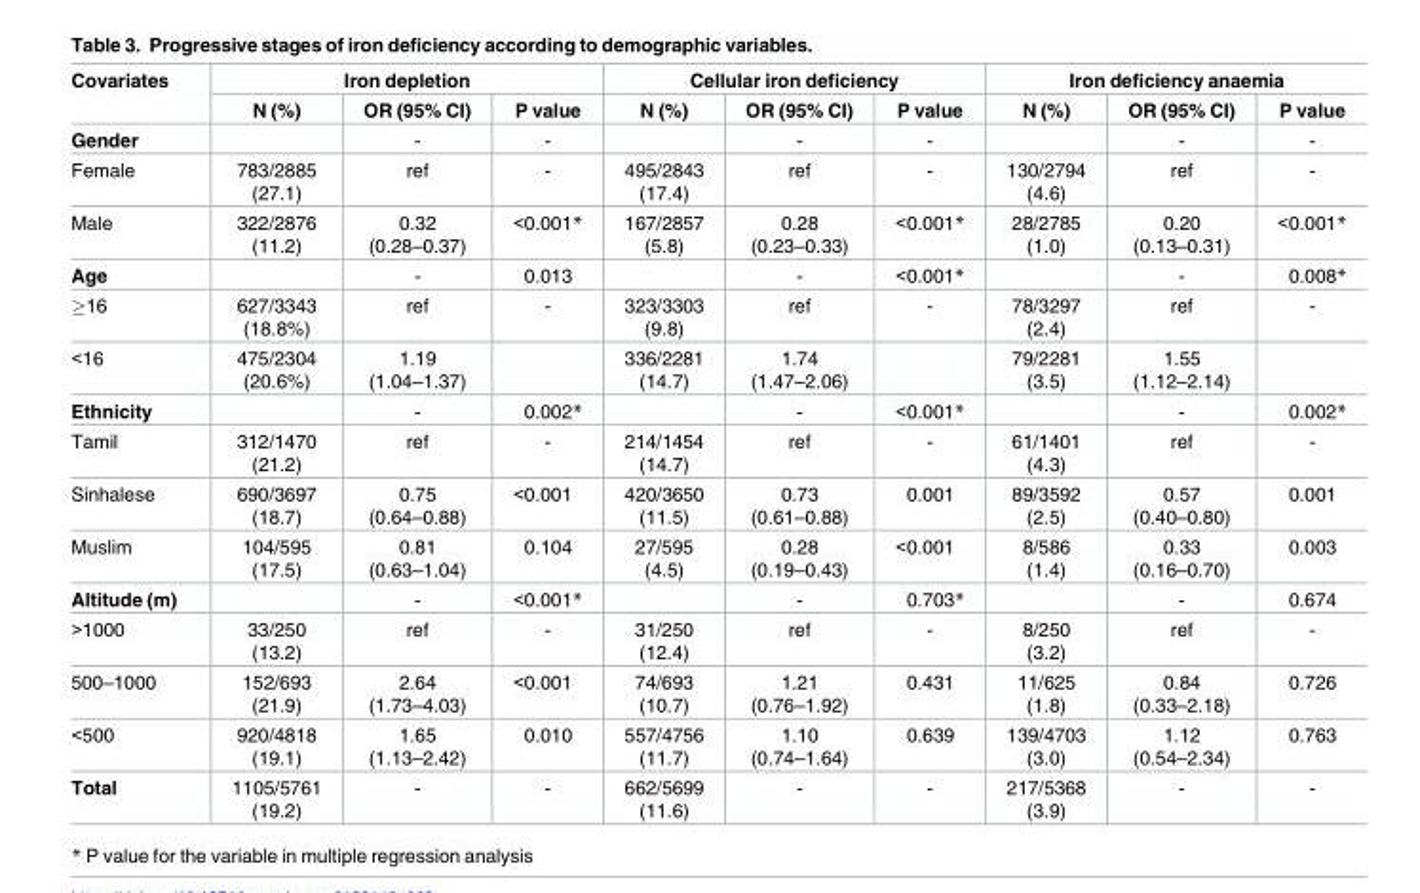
<table><thead><tr><td rowspan="2">Covariates</td><td colspan="3">Iron depletion</td><td colspan="3">Cellular iron deficiency</td><td colspan="3">Iron deficiency anaemia</td></tr><tr><td>N (%)</td><td>OR (95% CI)</td><td>P value</td><td>N (%)</td><td>OR (95% CI)</td><td>P value</td><td>N (%)</td><td>OR (95% CI)</td><td>P value</td></tr></thead><tbody><tr><td>Gender</td><td></td><td>-</td><td>-</td><td></td><td>-</td><td>-</td><td></td><td>-</td><td>-</td></tr><tr><td>Female</td><td>783/2885 (27.1)</td><td>ref</td><td>-</td><td>495/2843 (17.4)</td><td>ref</td><td>-</td><td>130/2794 (4.6)</td><td>ref</td><td>-</td></tr><tr><td>Male</td><td>322/2876 (11.2)</td><td>0.32 (0.28–0.37)</td><td>&lt;0.001*</td><td>167/2857 (5.8)</td><td>0.28 (0.23–0.33)</td><td>&lt;0.001*</td><td>28/2785 (1.0)</td><td>0.20 (0.13–0.31)</td><td>&lt;0.001*</td></tr><tr><td>Age</td><td></td><td>-</td><td>0.013</td><td></td><td>-</td><td>&lt;0.001*</td><td></td><td>-</td><td>0.008*</td></tr><tr><td>≥16</td><td>627/3343 (18.8%)</td><td>ref</td><td>-</td><td>323/3303 (9.8)</td><td>ref</td><td>-</td><td>78/3297 (2.4)</td><td>ref</td><td>-</td></tr><tr><td>&lt;16</td><td>475/2304 (20.6%)</td><td>1.19 (1.04–1.37)</td><td></td><td>336/2281 (14.7)</td><td>1.74 (1.47–2.06)</td><td></td><td>79/2281 (3.5)</td><td>1.55 (1.12–2.14)</td><td></td></tr><tr><td>Ethnicity</td><td></td><td>-</td><td>0.002*</td><td></td><td>-</td><td>&lt;0.001*</td><td></td><td>-</td><td>0.002*</td></tr><tr><td>Tamil</td><td>312/1470 (21.2)</td><td>ref</td><td>-</td><td>214/1454 (14.7)</td><td>ref</td><td>-</td><td>61/1401 (4.3)</td><td>ref</td><td>-</td></tr><tr><td>Sinhalese</td><td>690/3697 (18.7)</td><td>0.75 (0.64–0.88)</td><td>&lt;0.001</td><td>420/3650 (11.5)</td><td>0.73 (0.61–0.88)</td><td>0.001</td><td>89/3592 (2.5)</td><td>0.57 (0.40–0.80)</td><td>0.001</td></tr><tr><td>Muslim</td><td>104/595 (17.5)</td><td>0.81 (0.63–1.04)</td><td>0.104</td><td>27/595 (4.5)</td><td>0.28 (0.19–0.43)</td><td>&lt;0.001</td><td>8/586 (1.4)</td><td>0.33 (0.16–0.70)</td><td>0.003</td></tr><tr><td>Altitude (m)</td><td></td><td>-</td><td>&lt;0.001*</td><td></td><td>-</td><td>0.703*</td><td></td><td>-</td><td>0.674</td></tr><tr><td>&gt;1000</td><td>33/250 (13.2)</td><td>ref</td><td>-</td><td>31/250 (12.4)</td><td>ref</td><td>-</td><td>8/250 (3.2)</td><td>ref</td><td>-</td></tr><tr><td>500–1000</td><td>152/693 (21.9)</td><td>2.64 (1.73–4.03)</td><td>&lt;0.001</td><td>74/693 (10.7)</td><td>1.21 (0.76–1.92)</td><td>0.431</td><td>11/625 (1.8)</td><td>0.84 (0.33–2.18)</td><td>0.726</td></tr><tr><td>&lt;500</td><td>920/4818 (19.1)</td><td>1.65 (1.13–2.42)</td><td>0.010</td><td>557/4756 (11.7)</td><td>1.10 (0.74–1.64)</td><td>0.639</td><td>139/4703 (3.0)</td><td>1.12 (0.54–2.34)</td><td>0.763</td></tr><tr><td>Total</td><td>1105/5761 (19.2)</td><td>-</td><td>-</td><td>662/5699 (11.6)</td><td>-</td><td>-</td><td>217/5368 (3.9)</td><td>-</td><td>-</td></tr></tbody></table>